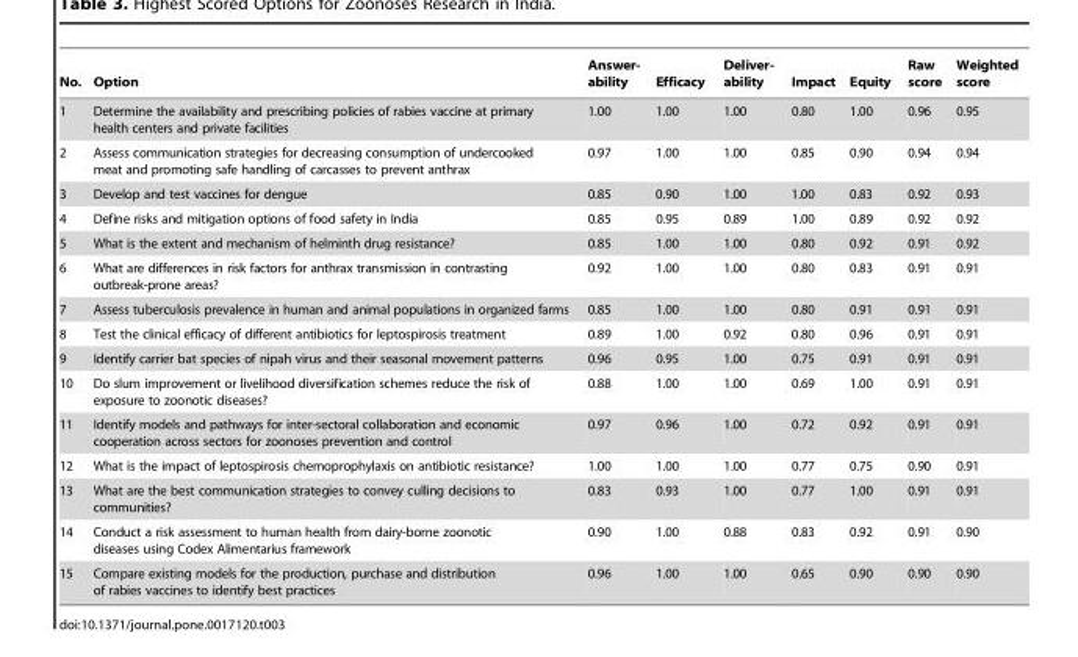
<table><thead><tr><td>No.</td><td>Option</td><td>Answer- ability</td><td>Efficacy</td><td>Deliver- ability</td><td>Impact</td><td>Equity</td><td>Raw score</td><td>Weighted score</td></tr></thead><tbody><tr><td>1</td><td>Determine the availability and prescribing policies of rabies vaccine at primary health centers and private facilities</td><td>1.00</td><td>1.00</td><td>1.00</td><td>0.80</td><td>1.00</td><td>0.96</td><td>0.95</td></tr><tr><td>2</td><td>Assess communication strategies for decreasing consumption of undercooked meat and promoting safe handling of carcasses to prevent anthrax</td><td>0.97</td><td>1.00</td><td>1.00</td><td>0.85</td><td>0.90</td><td>0.94</td><td>0.94</td></tr><tr><td>3</td><td>Develop and test vaccines for dengue</td><td>0.85</td><td>0.90</td><td>1.00</td><td>1.00</td><td>0.83</td><td>0.92</td><td>0.93</td></tr><tr><td>4</td><td>Define risks and mitigation options of food safety in India</td><td>0.85</td><td>0.95</td><td>0.89</td><td>1.00</td><td>0.89</td><td>0.92</td><td>0.92</td></tr><tr><td>5</td><td>What is the extent and mechanism of helminth drug resistance?</td><td>0.85</td><td>1.00</td><td>1.00</td><td>0.80</td><td>0.92</td><td>0.91</td><td>0.92</td></tr><tr><td>6</td><td>What are differences in risk factors for anthrax transmission in contrasting outbreak-prone areas?</td><td>0.92</td><td>1.00</td><td>1.00</td><td>0.80</td><td>0.83</td><td>0.91</td><td>0.91</td></tr><tr><td>7</td><td>Assess tuberculosis prevalence in human and animal populations in organized farms</td><td>0.85</td><td>1.00</td><td>1.00</td><td>0.80</td><td>0.91</td><td>0.91</td><td>0.91</td></tr><tr><td>8</td><td>Test the clinical efficacy of different antibiotics for leptospirosis treatment</td><td>0.89</td><td>1.00</td><td>0.92</td><td>0.80</td><td>0.96</td><td>0.91</td><td>0.91</td></tr><tr><td>9</td><td>Identify carrier bat species of nipah virus and their seasonal movement patterns</td><td>0.96</td><td>0.95</td><td>1.00</td><td>0.75</td><td>0.91</td><td>0.91</td><td>0.91</td></tr><tr><td>10</td><td>Do slum improvement or livelihood diversification schemes reduce the risk of exposure to zoonotic diseases?</td><td>0.88</td><td>1.00</td><td>1.00</td><td>0.69</td><td>1.00</td><td>0.91</td><td>0.91</td></tr><tr><td>11</td><td>Identify models and pathways for inter-sectoral collaboration and economic cooperation across sectors for zoonoses prevention and control</td><td>0.97</td><td>0.96</td><td>1.00</td><td>0.72</td><td>0.92</td><td>0.91</td><td>0.91</td></tr><tr><td>12</td><td>What is the impact of leptospirosis chemoprophylaxis on antibiotic resistance?</td><td>1.00</td><td>1.00</td><td>1.00</td><td>0.77</td><td>0.75</td><td>0.90</td><td>0.91</td></tr><tr><td>13</td><td>What are the best communication strategies to convey culling decisions to communities?</td><td>0.83</td><td>0.93</td><td>1.00</td><td>0.77</td><td>1.00</td><td>0.91</td><td>0.91</td></tr><tr><td>14</td><td>Conduct a risk assessment to human health from dairy-borne zoonotic diseases using Codex Alimentarius framework</td><td>0.90</td><td>1.00</td><td>0.88</td><td>0.83</td><td>0.92</td><td>0.91</td><td>0.90</td></tr><tr><td>15</td><td>Compare existing models for the production, purchase and distribution of rabies vaccines to identify best practices</td><td>0.96</td><td>1.00</td><td>1.00</td><td>0.65</td><td>0.90</td><td>0.90</td><td>0.90</td></tr></tbody></table>